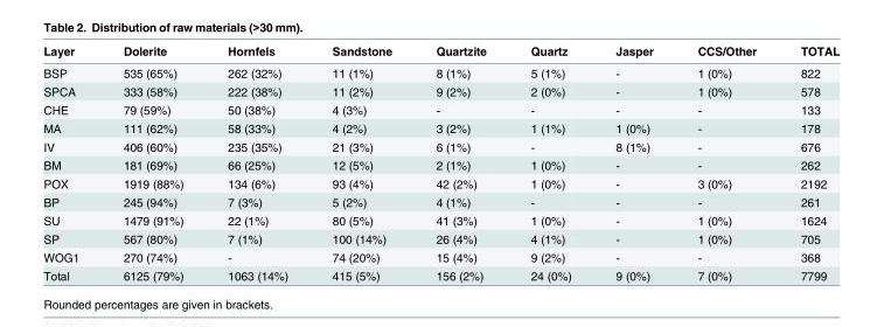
<table><thead><tr><td>Layer</td><td>Dolerite</td><td>Hornfels</td><td>Sandstone</td><td>Quartzite</td><td>Quartz</td><td>Jasper</td><td>CCS/Other</td><td>TOTAL</td></tr></thead><tbody><tr><td>BSP</td><td>535 (65%)</td><td>262 (32%)</td><td>11 (1%)</td><td>8 (1%)</td><td>5 (1%)</td><td>-</td><td>1 (0%)</td><td>822</td></tr><tr><td>SPCA</td><td>333 (58%)</td><td>222 (38%)</td><td>11 (2%)</td><td>9 (2%)</td><td>2 (0%)</td><td>-</td><td>1 (0%)</td><td>578</td></tr><tr><td>CHE</td><td>79 (59%)</td><td>50 (38%)</td><td>4 (3%)</td><td>-</td><td>-</td><td>-</td><td>-</td><td>133</td></tr><tr><td>MA</td><td>111 (62%)</td><td>58 (33%)</td><td>4 (2%)</td><td>3 (2%)</td><td>1 (1%)</td><td>1 (0%)</td><td>-</td><td>178</td></tr><tr><td>IV</td><td>406 (60%)</td><td>235 (35%)</td><td>21 (3%)</td><td>6 (1%)</td><td>-</td><td>8 (1%)</td><td>-</td><td>676</td></tr><tr><td>BM</td><td>181 (69%)</td><td>66 (25%)</td><td>12 (5%)</td><td>2 (1%)</td><td>1 (0%)</td><td>-</td><td>-</td><td>262</td></tr><tr><td>POX</td><td>1919 (88%)</td><td>134 (6%)</td><td>93 (4%)</td><td>42 (2%)</td><td>1 (0%)</td><td>-</td><td>3 (0%)</td><td>2192</td></tr><tr><td>BP</td><td>245 (94%)</td><td>7 (3%)</td><td>5 (2%)</td><td>4 (1%)</td><td>-</td><td>-</td><td>-</td><td>261</td></tr><tr><td>SU</td><td>1479 (91%)</td><td>22 (1%)</td><td>80 (5%)</td><td>41 (3%)</td><td>1 (0%)</td><td>-</td><td>1 (0%)</td><td>1624</td></tr><tr><td>SP</td><td>567 (80%)</td><td>7 (1%)</td><td>100 (14%)</td><td>26 (4%)</td><td>4 (1%)</td><td>-</td><td>1 (0%)</td><td>705</td></tr><tr><td>WOG1</td><td>270 (74%)</td><td>-</td><td>74 (20%)</td><td>15 (4%)</td><td>9 (2%)</td><td>-</td><td>-</td><td>368</td></tr><tr><td>Total</td><td>6125 (79%)</td><td>1063 (14%)</td><td>415 (5%)</td><td>156 (2%)</td><td>24 (0%)</td><td>9 (0%)</td><td>7 (0%)</td><td>7799</td></tr></tbody></table>